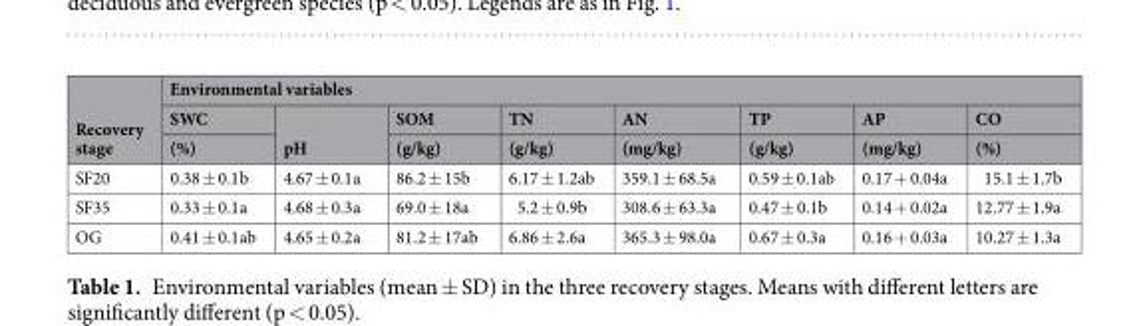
<table><thead><tr><td rowspan="3">Recovery stage</td><td colspan="8">Environmental variables</td></tr><tr><td rowspan="2">SWC (%)</td><td rowspan="2">pH</td><td rowspan="2">SOM (g/kg)</td><td rowspan="2">TN (g/kg)</td><td rowspan="2">AN (mg/kg)</td><td rowspan="2">TP (g/kg)</td><td rowspan="2">AP (mg/kg)</td><td rowspan="2">CO (%)</td></tr><tr></tr></thead><tbody><tr><td>SF20</td><td>0.38 ± 0.1b</td><td>4.67 ± 0.1a</td><td>86.2 ± 15b</td><td>6.17 ± 1.2ab</td><td>359.1 ± 68.5a</td><td>0.59 ± 0.1ab</td><td>0.17 + 0.04a</td><td>15.1 ± 1.7b</td></tr><tr><td>SF35</td><td>0.33 ± 0.1a</td><td>4.68 ± 0.3a</td><td>69.0 ± 18a</td><td>5.2 ± 0.9b</td><td>308.6 ± 63.3a</td><td>0.47 ± 0.1b</td><td>0.14 + 0.02a</td><td>12.77 ± 1.9a</td></tr><tr><td>OG</td><td>0.41 ± 0.1ab</td><td>4.65 ± 0.2a</td><td>81.2 ± 17ab</td><td>6.86 ± 2.6a</td><td>365.3 ± 98.0a</td><td>0.67 ± 0.3a</td><td>0.16 + 0.03a</td><td>10.27 ± 1.3a</td></tr></tbody></table>